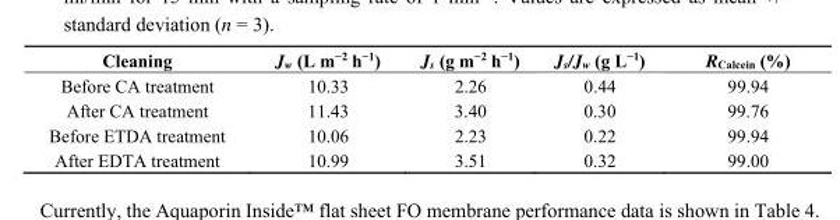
<table><thead><tr><td>Cleaning</td><td>J<sub>w</sub> (L m<sup>−2</sup> h<sup>−1</sup>)</td><td>J<sub>s</sub> (g m<sup>−2</sup> h<sup>−1</sup>)</td><td>J<sub>s</sub>/J<sub>w</sub> (g L<sup>−1</sup>)</td><td>R<sub>Calcein</sub> (%)</td></tr></thead><tbody><tr><td>Before CA treatment</td><td>10.33</td><td>2.26</td><td>0.44</td><td>99.94</td></tr><tr><td>After CA treatment</td><td>11.43</td><td>3.40</td><td>0.30</td><td>99.76</td></tr><tr><td>Before ETDA treatment</td><td>10.06</td><td>2.23</td><td>0.22</td><td>99.94</td></tr><tr><td>After EDTA treatment</td><td>10.99</td><td>3.51</td><td>0.32</td><td>99.00</td></tr></tbody></table>